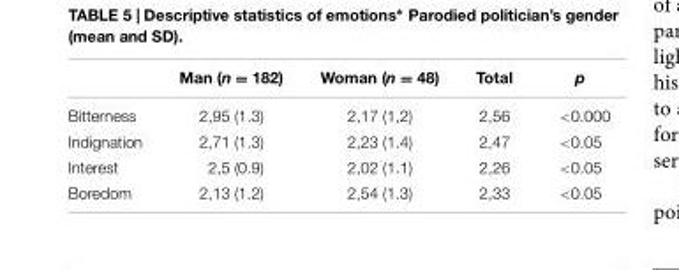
<table><thead><tr><td></td><td>Man (n = 182)</td><td>Woman (n = 48)</td><td>Total</td><td>p</td></tr></thead><tbody><tr><td>Bitterness</td><td>2,95 (1.3)</td><td>2,17 (1,2)</td><td>2,56</td><td>&lt;0.000</td></tr><tr><td>Indignation</td><td>2,71 (1.3)</td><td>2,23 (1.4)</td><td>2,47</td><td>&lt;0.05</td></tr><tr><td>Interest</td><td>2,5 (0.9)</td><td>2,02 (1.1)</td><td>2,26</td><td>&lt;0.05</td></tr><tr><td>Boredom</td><td>2,13 (1.2)</td><td>2,54 (1.3)</td><td>2,33</td><td>&lt;0.05</td></tr></tbody></table>